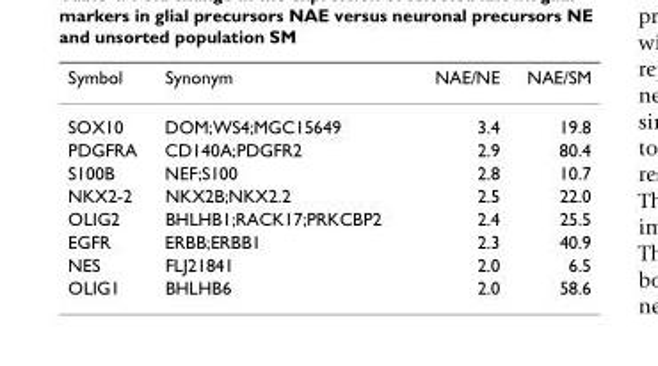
<table><thead><tr><td>Symbol</td><td>Synonym</td><td>NAE/NE</td><td>NAE/SM</td></tr></thead><tbody><tr><td>SOX10</td><td>DOM;WS4;MGC15649</td><td>3.4</td><td>19.8</td></tr><tr><td>PDGFRA</td><td>CD140A;PDGFR2</td><td>2.9</td><td>80.4</td></tr><tr><td>S100B</td><td>NEF;S100</td><td>2.8</td><td>10.7</td></tr><tr><td>NKX2-2</td><td>NKX2B;NKX2.2</td><td>2.5</td><td>22.0</td></tr><tr><td>OLIG2</td><td>BHLHB1;RACK17;PRKCBP2</td><td>2.4</td><td>25.5</td></tr><tr><td>EGFR</td><td>ERBB;ERBB1</td><td>2.3</td><td>40.9</td></tr><tr><td>NES</td><td>FLJ21841</td><td>2.0</td><td>6.5</td></tr><tr><td>OLIG1</td><td>BHLHB6</td><td>2.0</td><td>58.6</td></tr></tbody></table>